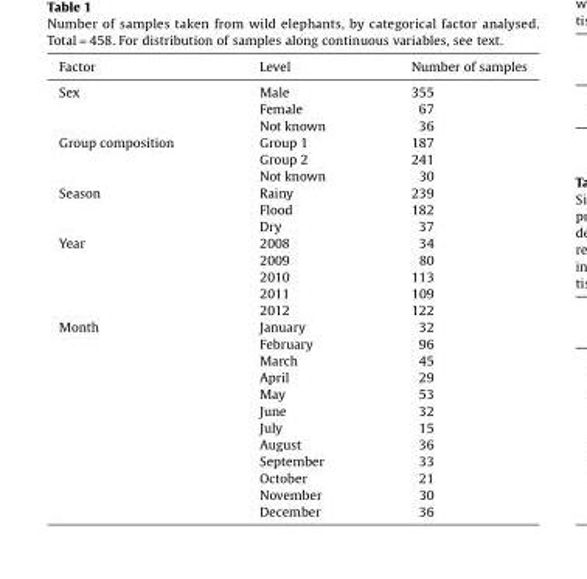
<table><thead><tr><td>Factor</td><td>Level</td><td>Number of samples</td></tr></thead><tbody><tr><td rowspan="3">Sex</td><td>Male</td><td>355</td></tr><tr><td>Female</td><td>67</td></tr><tr><td>Not known</td><td>36</td></tr><tr><td rowspan="3">Group composition</td><td>Group 1</td><td>187</td></tr><tr><td>Group 2</td><td>241</td></tr><tr><td>Not known</td><td>30</td></tr><tr><td rowspan="3">Season</td><td>Rainy</td><td>239</td></tr><tr><td>Flood</td><td>182</td></tr><tr><td>Dry</td><td>37</td></tr><tr><td rowspan="5">Year</td><td>2008</td><td>34</td></tr><tr><td>2009</td><td>80</td></tr><tr><td>2010</td><td>113</td></tr><tr><td>2011</td><td>109</td></tr><tr><td>2012</td><td>122</td></tr><tr><td rowspan="12">Month</td><td>January</td><td>32</td></tr><tr><td>February</td><td>96</td></tr><tr><td>March</td><td>45</td></tr><tr><td>April</td><td>29</td></tr><tr><td>May</td><td>53</td></tr><tr><td>June</td><td>32</td></tr><tr><td>July</td><td>15</td></tr><tr><td>August</td><td>36</td></tr><tr><td>September</td><td>33</td></tr><tr><td>October</td><td>21</td></tr><tr><td>November</td><td>30</td></tr><tr><td>December</td><td>36</td></tr></tbody></table>